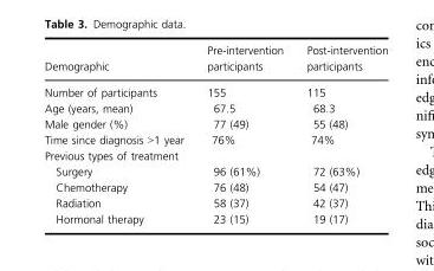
<table><thead><tr><td>Demographic</td><td>Pre-intervention participants</td><td>Post-intervention participants</td></tr></thead><tbody><tr><td>Number of participants</td><td>155</td><td>115</td></tr><tr><td>Age (years, mean)</td><td>67.5</td><td>68.3</td></tr><tr><td>Male gender (%)</td><td>77 (49)</td><td>55 (48)</td></tr><tr><td>Time since diagnosis &gt;1 year</td><td>76%</td><td>74%</td></tr><tr><td colspan="3">Previous types of treatment</td></tr><tr><td>Surgery</td><td>96 (61%)</td><td>72 (63%)</td></tr><tr><td>Chemotherapy</td><td>76 (48)</td><td>54 (47)</td></tr><tr><td>Radiation</td><td>58 (37)</td><td>42 (37)</td></tr><tr><td>Hormonal therapy</td><td>23 (15)</td><td>19 (17)</td></tr></tbody></table>